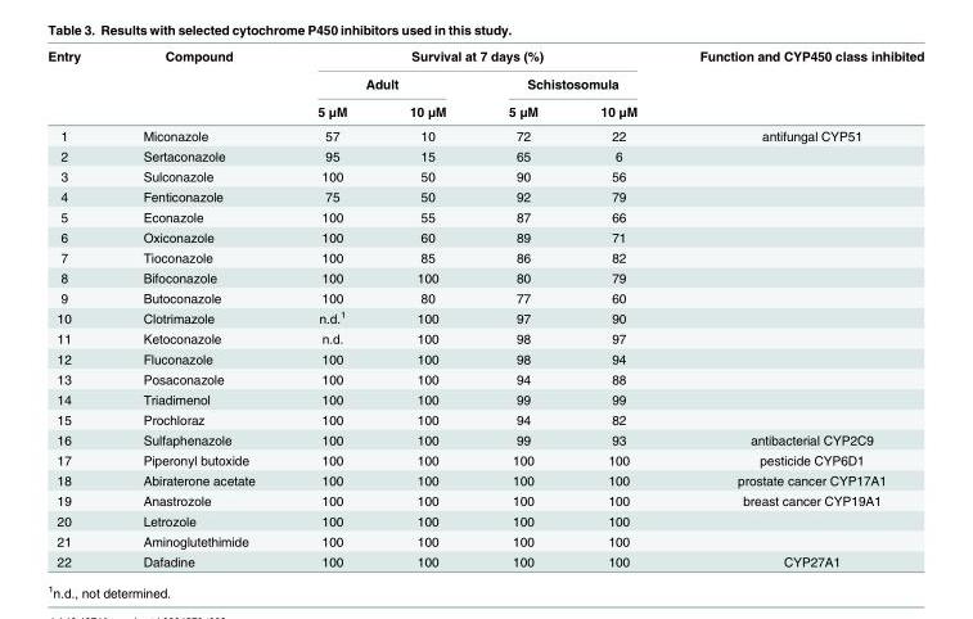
<table><thead><tr><td rowspan="3">Entry</td><td rowspan="3">Compound</td><td colspan="4">Survival at 7 days (%)</td><td rowspan="3">Function and CYP450 class inhibited</td></tr><tr><td colspan="2">Adult</td><td colspan="2">Schistosomula</td></tr><tr><td>5 μM</td><td>10 μM</td><td>5 μM</td><td>10 μM</td></tr></thead><tbody><tr><td>1</td><td>Miconazole</td><td>57</td><td>10</td><td>72</td><td>22</td><td>antifungal CYP51</td></tr><tr><td>2</td><td>Sertaconazole</td><td>95</td><td>15</td><td>65</td><td>6</td><td></td></tr><tr><td>3</td><td>Sulconazole</td><td>100</td><td>50</td><td>90</td><td>56</td><td></td></tr><tr><td>4</td><td>Fenticonazole</td><td>75</td><td>50</td><td>92</td><td>79</td><td></td></tr><tr><td>5</td><td>Econazole</td><td>100</td><td>55</td><td>87</td><td>66</td><td></td></tr><tr><td>6</td><td>Oxiconazole</td><td>100</td><td>60</td><td>89</td><td>71</td><td></td></tr><tr><td>7</td><td>Tioconazole</td><td>100</td><td>85</td><td>86</td><td>82</td><td></td></tr><tr><td>8</td><td>Bifoconazole</td><td>100</td><td>100</td><td>80</td><td>79</td><td></td></tr><tr><td>9</td><td>Butoconazole</td><td>100</td><td>80</td><td>77</td><td>60</td><td></td></tr><tr><td>10</td><td>Clotrimazole</td><td>n.d.<sup>1</sup></td><td>100</td><td>97</td><td>90</td><td></td></tr><tr><td>11</td><td>Ketoconazole</td><td>n.d.</td><td>100</td><td>98</td><td>97</td><td></td></tr><tr><td>12</td><td>Fluconazole</td><td>100</td><td>100</td><td>98</td><td>94</td><td></td></tr><tr><td>13</td><td>Posaconazole</td><td>100</td><td>100</td><td>94</td><td>88</td><td></td></tr><tr><td>14</td><td>Triadimenol</td><td>100</td><td>100</td><td>99</td><td>99</td><td></td></tr><tr><td>15</td><td>Prochloraz</td><td>100</td><td>100</td><td>94</td><td>82</td><td></td></tr><tr><td>16</td><td>Sulfaphenazole</td><td>100</td><td>100</td><td>99</td><td>93</td><td>antibacterial CYP2C9</td></tr><tr><td>17</td><td>Piperonyl butoxide</td><td>100</td><td>100</td><td>100</td><td>100</td><td>pesticide CYP6D1</td></tr><tr><td>18</td><td>Abiraterone acetate</td><td>100</td><td>100</td><td>100</td><td>100</td><td>prostate cancer CYP17A1</td></tr><tr><td>19</td><td>Anastrozole</td><td>100</td><td>100</td><td>100</td><td>100</td><td>breast cancer CYP19A1</td></tr><tr><td>20</td><td>Letrozole</td><td>100</td><td>100</td><td>100</td><td>100</td><td></td></tr><tr><td>21</td><td>Aminoglutethimide</td><td>100</td><td>100</td><td>100</td><td>100</td><td></td></tr><tr><td>22</td><td>Dafadine</td><td>100</td><td>100</td><td>100</td><td>100</td><td>CYP27A1</td></tr></tbody></table>